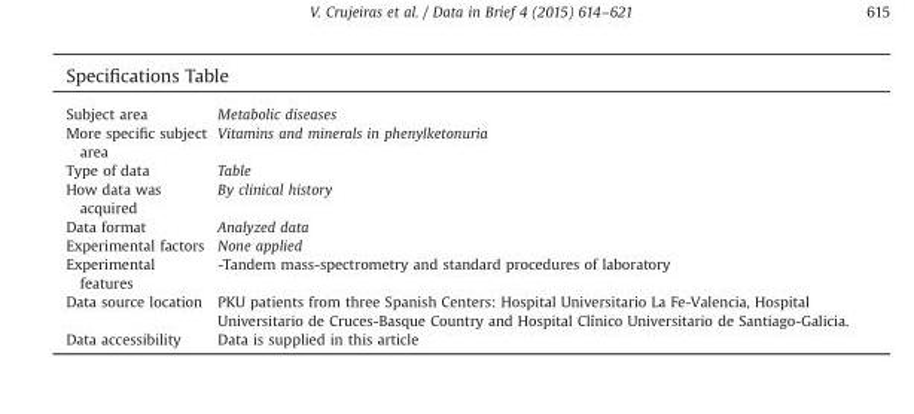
<table><thead><tr><td colspan="2">Specifications Table</td></tr><tr><td>Subject area</td><td>Metabolic diseases</td></tr></thead><tbody><tr><td>More specific subject area</td><td>Vitamins and minerals in phenylketonuria</td></tr><tr><td>Type of data</td><td>Table</td></tr><tr><td>How data was acquired</td><td>By clinical history</td></tr><tr><td>Data format</td><td>Analyzed data</td></tr><tr><td>Experimental factors</td><td>None applied</td></tr><tr><td>Experimental features</td><td>-Tandem mass-spectrometry and standard procedures of laboratory</td></tr><tr><td>Data source location</td><td>PKU patients from three Spanish Centers: Hospital Universitario La Fe-Valencia, Hospital Universitario de Cruces-Basque Country and Hospital Clínico Universitario de Santiago-Galicia.</td></tr><tr><td>Data accessibility</td><td>Data is supplied in this article</td></tr></tbody></table>